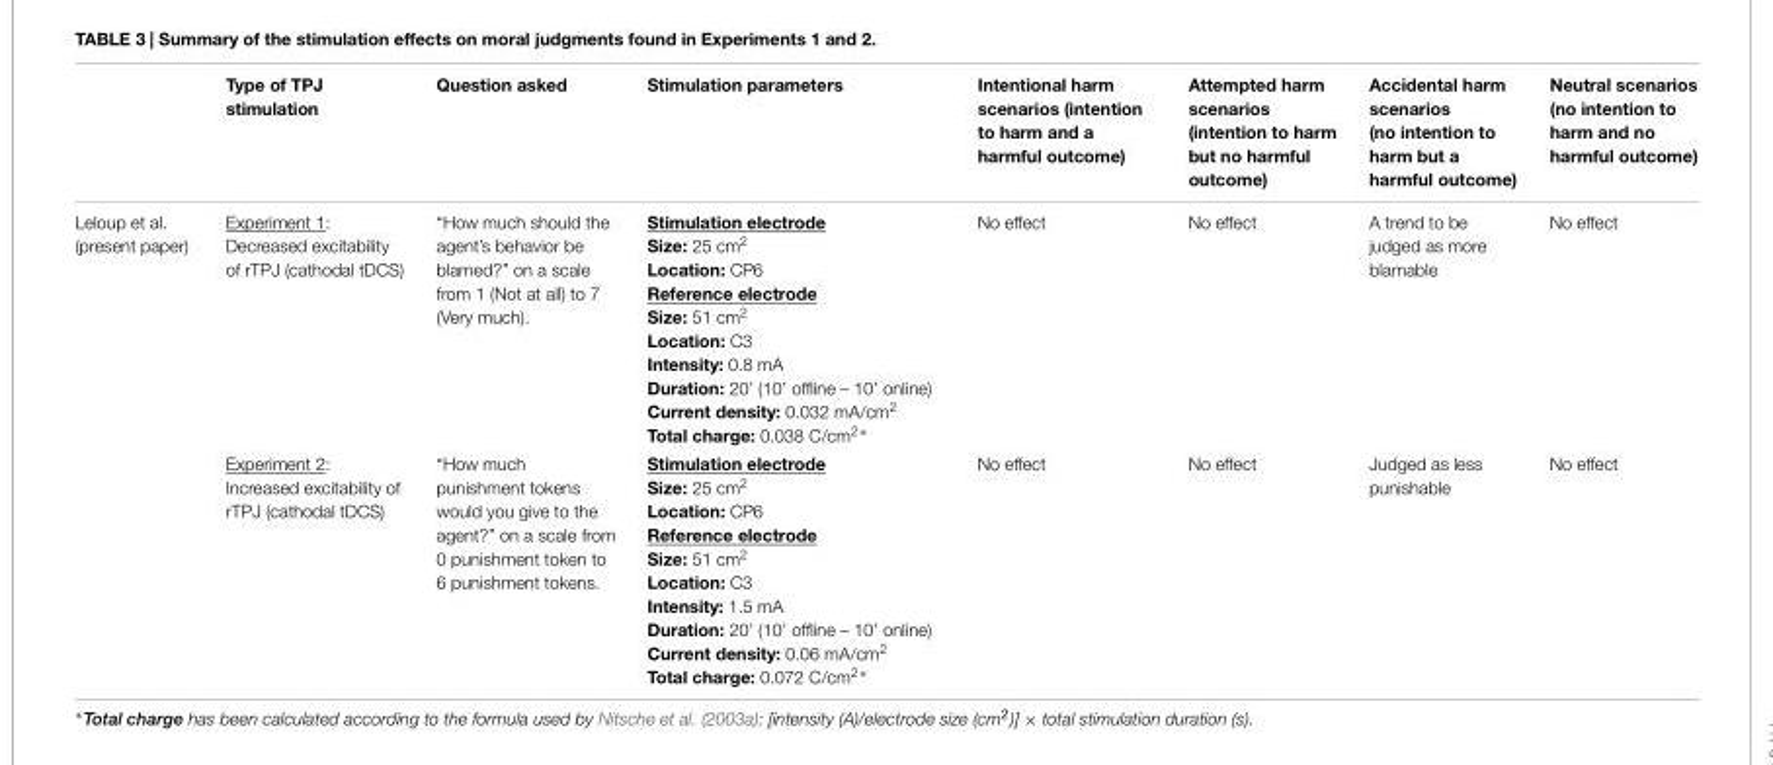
<table><thead><tr><td></td><td>Type of TPJ stimulation</td><td>Question asked</td><td>Stimulation parameters</td><td>Intentional harm scenarios (intention to harm and a harmful outcome)</td><td>Attempted harm scenarios (intention to harm but no harmful outcome)</td><td>Accidental harm scenarios (no intention to harm but a harmful outcome)</td><td>Neutral scenarios (no intention to harm and no harmful outcome)</td></tr></thead><tbody><tr><td rowspan="2">Leloup et al. (present paper)</td><td>Experiment 1: Decreased excitability of rTPJ (cathodal tDCS)</td><td>“How much should the agent’s behavior be blamed?” on a scale from 1 (Not at all) to 7 (Very much).</td><td>Stimulation electrode Size: 25 cm2 Location: CP6 Reference electrode Size: 51 cm2 Location: C3 Intensity: 0.8 mA Duration: 20’ (10’ offline – 10’ online) Current density: 0.032 mA/cm2 Total charge: 0.038 C/cm2∗</td><td>No effect</td><td>No effect</td><td>A trend to be judged as more blamable</td><td>No effect</td></tr><tr><td>Experiment 2: Increased excitability of rTPJ (cathodal tDCS)</td><td>“How much punishment tokens would you give to the agent?” on a scale from 0 punishment token to 6 punishment tokens.</td><td>Stimulation electrode Size: 25 cm2 Location: CP6 Reference electrode Size: 51 cm2 Location: C3 Intensity: 1.5 mA Duration: 20’ (10’ offline – 10’ online) Current density: 0.06 mA/cm2 Total charge: 0.072 C/cm2∗</td><td>No effect</td><td>No effect</td><td>Judged as less punishable</td><td>No effect</td></tr></tbody></table>